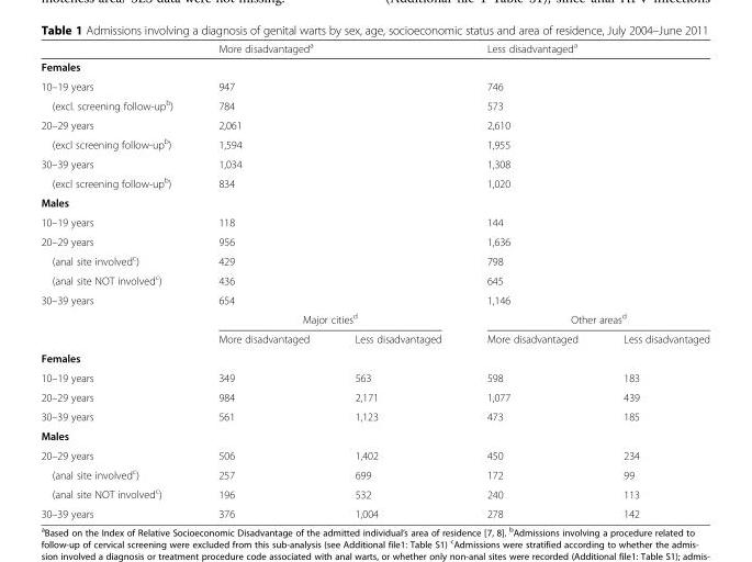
<table><thead><tr><td></td><td colspan="2">More disadvantaged<sup>a</sup></td><td colspan="2">Less disadvantaged<sup>a</sup></td></tr></thead><tbody><tr><td colspan="5">Females</td></tr><tr><td>10–19 years</td><td colspan="2">947</td><td colspan="2">746</td></tr><tr><td>(excl. screening follow-up<sup>b</sup>)</td><td colspan="2">784</td><td colspan="2">573</td></tr><tr><td>20–29 years</td><td colspan="2">2,061</td><td colspan="2">2,610</td></tr><tr><td>(excl screening follow-up<sup>b</sup>)</td><td colspan="2">1,594</td><td colspan="2">1,955</td></tr><tr><td>30–39 years</td><td colspan="2">1,034</td><td colspan="2">1,308</td></tr><tr><td>(excl screening follow-up<sup>b</sup>)</td><td colspan="2">834</td><td colspan="2">1,020</td></tr><tr><td colspan="5">Males</td></tr><tr><td>10–19 years</td><td colspan="2">118</td><td colspan="2">144</td></tr><tr><td>20–29 years</td><td colspan="2">956</td><td colspan="2">1,636</td></tr><tr><td>(anal site involved<sup>c</sup>)</td><td colspan="2">429</td><td colspan="2">798</td></tr><tr><td>(anal site NOT involved<sup>c</sup>)</td><td colspan="2">436</td><td colspan="2">645</td></tr><tr><td rowspan="3">30–39 years</td><td colspan="2">654</td><td colspan="2">1,146</td></tr><tr><td colspan="2">Major cities<sup>d</sup></td><td colspan="2">Other areas<sup>d</sup></td></tr><tr><td>More disadvantaged</td><td>Less disadvantaged</td><td>More disadvantaged</td><td>Less disadvantaged</td></tr><tr><td colspan="5">Females</td></tr><tr><td>10–19 years</td><td>349</td><td>563</td><td>598</td><td>183</td></tr><tr><td>20–29 years</td><td>984</td><td>2,171</td><td>1,077</td><td>439</td></tr><tr><td>30–39 years</td><td>561</td><td>1,123</td><td>473</td><td>185</td></tr><tr><td colspan="5">Males</td></tr><tr><td>20–29 years</td><td>506</td><td>1,402</td><td>450</td><td>234</td></tr><tr><td>(anal site involved<sup>c</sup>)</td><td>257</td><td>699</td><td>172</td><td>99</td></tr><tr><td>(anal site NOT involved<sup>c</sup>)</td><td>196</td><td>532</td><td>240</td><td>113</td></tr><tr><td>30–39 years</td><td>376</td><td>1,004</td><td>278</td><td>142</td></tr></tbody></table>